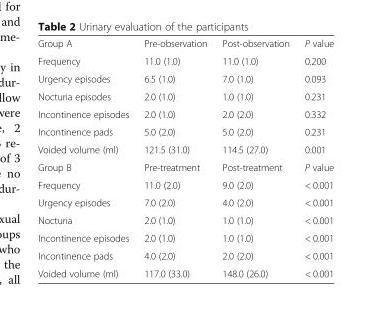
<table><tbody><tr><td>Group A</td><td>Pre-observation</td><td>Post-observation</td><td>P value</td></tr><tr><td>Frequency</td><td>11.0 (1.0)</td><td>11.0 (1.0)</td><td>0.200</td></tr><tr><td>Urgency episodes</td><td>6.5 (1.0)</td><td>7.0 (1.0)</td><td>0.093</td></tr><tr><td>Nocturia episodes</td><td>2.0 (1.0)</td><td>1.0 (1.0)</td><td>0.231</td></tr><tr><td>Incontinence episodes</td><td>2.0 (1.0)</td><td>2.0 (2.0)</td><td>0.332</td></tr><tr><td>Incontinence pads</td><td>5.0 (2.0)</td><td>5.0 (2.0)</td><td>0.231</td></tr><tr><td>Voided volume (ml)</td><td>121.5 (31.0)</td><td>114.5 (27.0)</td><td>0.001</td></tr><tr><td>Group B</td><td>Pre-treatment</td><td>Post-treatment</td><td>P value</td></tr><tr><td>Frequency</td><td>11.0 (2.0)</td><td>9.0 (2.0)</td><td>&lt; 0.001</td></tr><tr><td>Urgency episodes</td><td>7.0 (2.0)</td><td>4.0 (2.0)</td><td>&lt; 0.001</td></tr><tr><td>Nocturia</td><td>2.0 (1.0)</td><td>1.0 (1.0)</td><td>&lt; 0.001</td></tr><tr><td>Incontinence episodes</td><td>2.0 (1.0)</td><td>1.0 (1.0)</td><td>&lt; 0.001</td></tr><tr><td>Incontinence pads</td><td>4.0 (2.0)</td><td>2.0 (2.0)</td><td>&lt; 0.001</td></tr><tr><td>Voided volume (ml)</td><td>117.0 (33.0)</td><td>148.0 (26.0)</td><td>&lt; 0.001</td></tr></tbody></table>